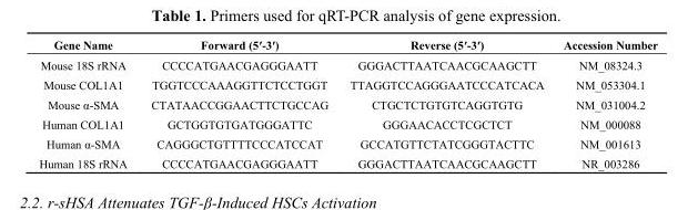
<table><thead><tr><td>Gene Name</td><td>Forward (5′-3′)</td><td>Reverse (5′-3′)</td><td>Accession Number</td></tr></thead><tbody><tr><td>Mouse 18S rRNA</td><td>CCCCATGAACGAGGGAATT</td><td>GGGACTTAATCAACGCAAGCTT</td><td>NM_08324.3</td></tr><tr><td>Mouse COL1A1</td><td>TGGTCCCAAAGGTTCTCCTGGT</td><td>TTAGGTCCAGGGAATCCCATCACA</td><td>NM_053304.1</td></tr><tr><td>Mouse α-SMA</td><td>CTATAACCGGAACTTCTGCCAG</td><td>CTGCTCTGTGTCAGGTGTG</td><td>NM_031004.2</td></tr><tr><td>Human COL1A1</td><td>GCTGGTGTGATGGGATTC</td><td>GGGAACACCTCGCTCT</td><td>NM_000088</td></tr><tr><td>Human α-SMA</td><td>CAGGGCTGTTTTCCCATCCAT</td><td>GCCATGTTCTATCGGGTACTTC</td><td>NM_001613</td></tr><tr><td>Human 18S rRNA</td><td>CCCCATGAACGAGGGAATT</td><td>GGGACTTAATCAACGCAAGCTT</td><td>NR_003286</td></tr></tbody></table>